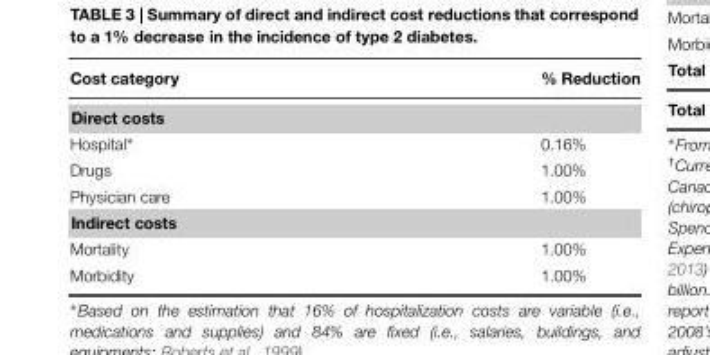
<table><thead><tr><td>Cost category</td><td>% Reduction</td></tr></thead><tbody><tr><td colspan="2">Direct costs</td></tr><tr><td>Hospital∗</td><td>0.16%</td></tr><tr><td>Drugs</td><td>1.00%</td></tr><tr><td>Physician care</td><td>1.00%</td></tr><tr><td colspan="2">Indirect costs</td></tr><tr><td>Mortality</td><td>1.00%</td></tr><tr><td>Morbidity</td><td>1.00%</td></tr></tbody></table>